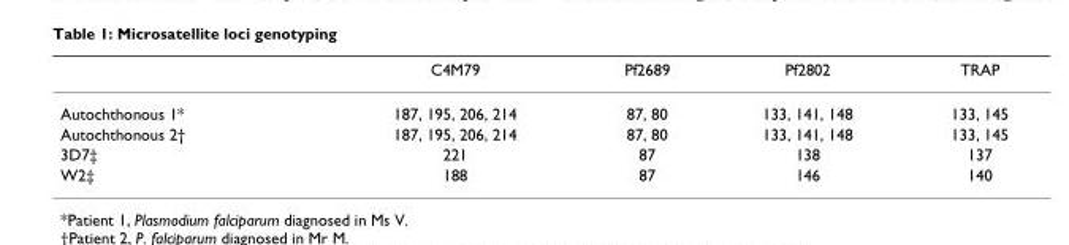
<table><thead><tr><td></td><td>C4M79</td><td>Pf2689</td><td>Pf2802</td><td>TRAP</td></tr></thead><tbody><tr><td>Autochthonous 1*</td><td>187, 195, 206, 214</td><td>87, 80</td><td>133, 141, 148</td><td>133, 145</td></tr><tr><td>Autochthonous 2†</td><td>187, 195, 206, 214</td><td>87, 80</td><td>133, 141, 148</td><td>133, 145</td></tr><tr><td>3D7‡</td><td>221</td><td>87</td><td>138</td><td>137</td></tr><tr><td>W2‡</td><td>188</td><td>87</td><td>146</td><td>140</td></tr></tbody></table>